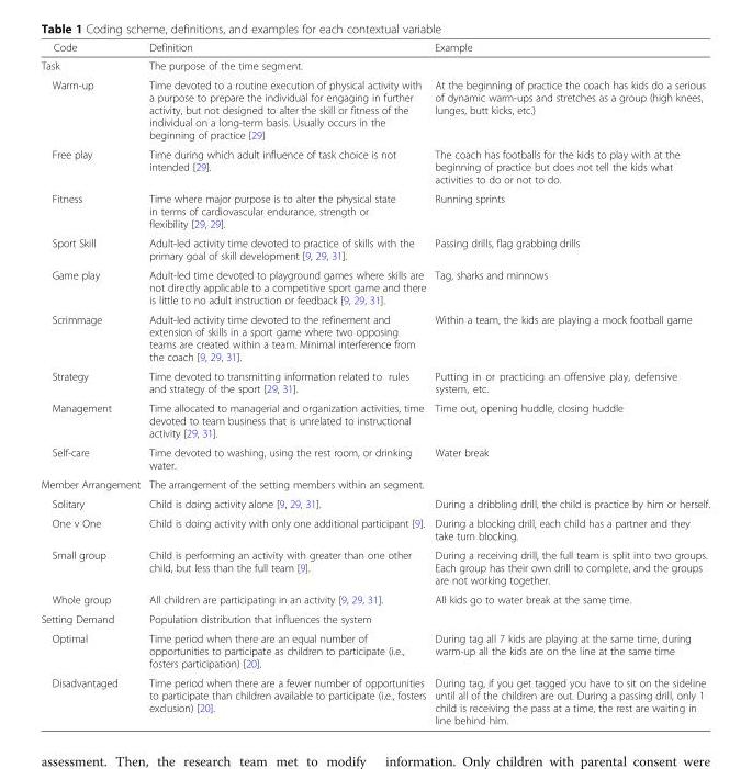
<table><thead><tr><td>Code</td><td>Definition</td><td>Example</td></tr></thead><tbody><tr><td>Task</td><td>The purpose of the time segment.</td><td></td></tr><tr><td>Warm-up</td><td>Time devoted to a routine execution of physical activity with a purpose to prepare the individual for engaging in further activity, but not designed to alter the skill or fitness of the individual on a long-term basis. Usually occurs in the beginning of practice [29]</td><td>At the beginning of practice the coach has kids do a serious of dynamic warm-ups and stretches as a group (high knees, lunges, butt kicks, etc.)</td></tr><tr><td>Free play</td><td>Time during which adult influence of task choice is not intended [29].</td><td>The coach has footballs for the kids to play with at the beginning of practice but does not tell the kids what activities to do or not to do.</td></tr><tr><td>Fitness</td><td>Time where major purpose is to alter the physical state in terms of cardiovascular endurance, strength or flexibility [29, 29].</td><td>Running sprints</td></tr><tr><td>Sport Skill</td><td>Adult-led activity time devoted to practice of skills with the primary goal of skill development [9, 29, 31].</td><td>Passing drills, flag grabbing drills</td></tr><tr><td>Game play</td><td>Adult-led time devoted to playground games where skills are not directly applicable to a competitive sport game and there is little to no adult instruction or feedback [9, 29, 31].</td><td>Tag, sharks and minnows</td></tr><tr><td>Scrimmage</td><td>Adult-led activity time devoted to the refinement and extension of skills in a sport game where two opposing teams are created within a team. Minimal interference from the coach [9, 29, 31].</td><td>Within a team, the kids are playing a mock football game</td></tr><tr><td>Strategy</td><td>Time devoted to transmitting information related to rules and strategy of the sport [29, 31].</td><td>Putting in or practicing an offensive play, defensive system, etc.</td></tr><tr><td>Management</td><td>Time allocated to managerial and organization activities, time devoted to team business that is unrelated to instructional activity [29, 31].</td><td>Time out, opening huddle, closing huddle</td></tr><tr><td>Self-care</td><td>Time devoted to washing, using the rest room, or drinking water.</td><td>Water break</td></tr><tr><td>Member Arrangement</td><td>The arrangement of the setting members within an segment.</td><td></td></tr><tr><td>Solitary</td><td>Child is doing activity alone [9, 29, 31].</td><td>During a dribbling drill, the child is practice by him or herself.</td></tr><tr><td>One v One</td><td>Child is doing activity with only one additional participant [9].</td><td>During a blocking drill, each child has a partner and they take turn blocking.</td></tr><tr><td>Small group</td><td>Child is performing an activity with greater than one other child, but less than the full team [9].</td><td>During a receiving drill, the full team is split into two groups. Each group has their own drill to complete, and the groups are not working together.</td></tr><tr><td>Whole group</td><td>All children are participating in an activity [9, 29, 31].</td><td>All kids go to water break at the same time.</td></tr><tr><td>Setting Demand</td><td>Population distribution that influences the system</td><td></td></tr><tr><td>Optimal</td><td>Time period when there are an equal number of opportunities to participate as children to participate (i.e., fosters participation) [20].</td><td>During tag all 7 kids are playing at the same time, during warm-up all the kids are on the line at the same time</td></tr><tr><td>Disadvantaged</td><td>Time period when there are a fewer number of opportunities to participate than children available to participate (i.e., fosters exclusion) [20].</td><td>During tag, if you get tagged you have to sit on the sideline until all of the children are out. During a passing drill, only 1 child is receiving the pass at a time, the rest are waiting in line behind him.</td></tr></tbody></table>